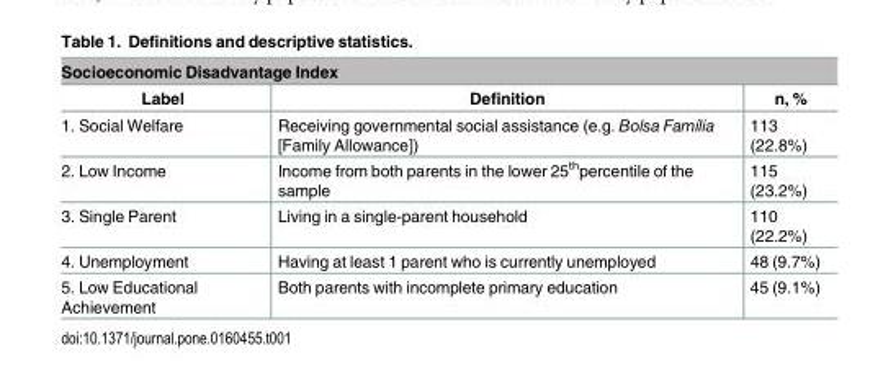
<table><thead><tr><td colspan="3">Socioeconomic Disadvantage Index</td></tr><tr><td>Label</td><td>Definition</td><td>n, %</td></tr></thead><tbody><tr><td>1. Social Welfare</td><td>Receiving governmental social assistance (e.g. Bolsa Família [Family Allowance])</td><td>113 (22.8%)</td></tr><tr><td>2. Low Income</td><td>Income from both parents in the lower 25<sup>th</sup>percentile of the sample</td><td>115 (23.2%)</td></tr><tr><td>3. Single Parent</td><td>Living in a single-parent household</td><td>110 (22.2%)</td></tr><tr><td>4. Unemployment</td><td>Having at least 1 parent who is currently unemployed</td><td>48 (9.7%)</td></tr><tr><td>5. Low Educational Achievement</td><td>Both parents with incomplete primary education</td><td>45 (9.1%)</td></tr></tbody></table>